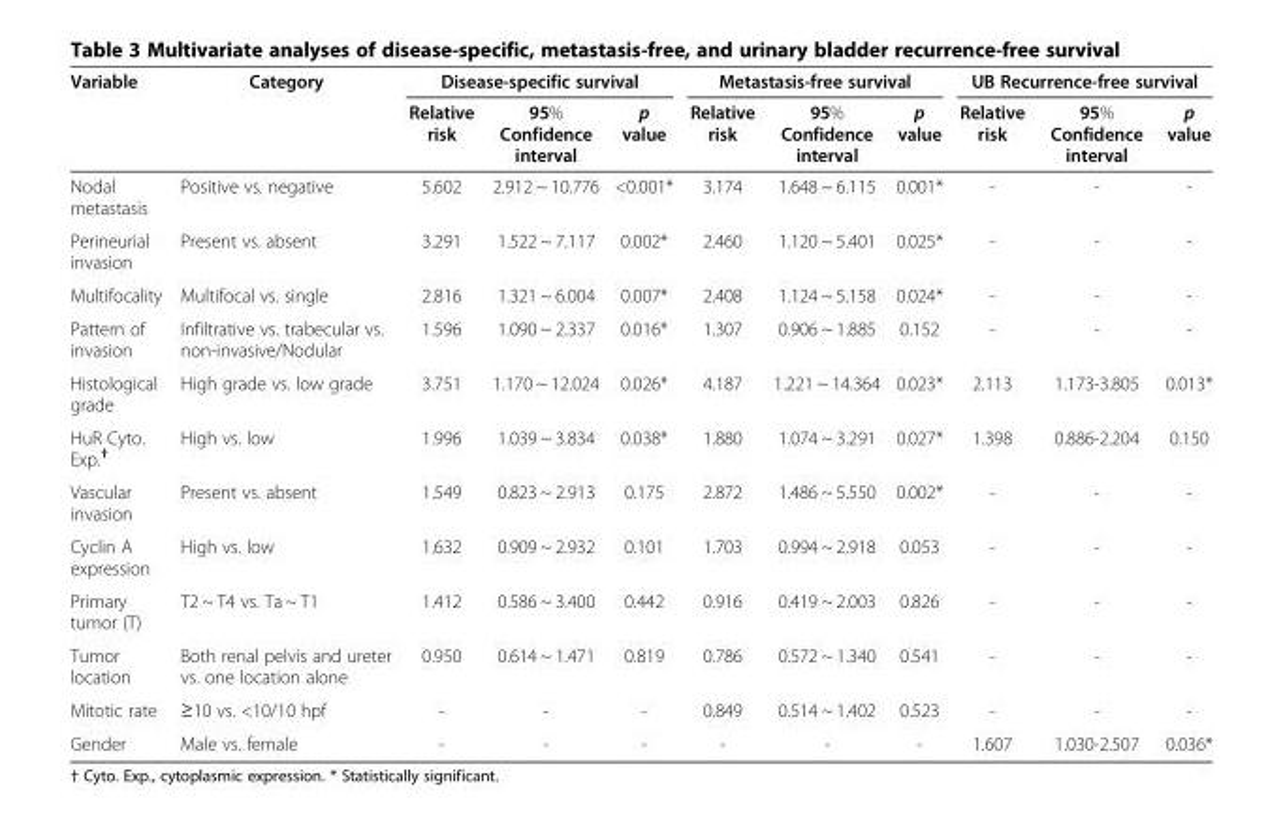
<table><thead><tr><td rowspan="2">Variable</td><td rowspan="2">Category</td><td colspan="3">Disease-specific survival</td><td colspan="3">Metastasis-free survival</td><td colspan="3">UB Recurrence-free survival</td></tr><tr><td>Relative risk</td><td>95% Confidence interval</td><td>p value</td><td>Relative risk</td><td>95% Confidence interval</td><td>p value</td><td>Relative risk</td><td>95% Confidence interval</td><td>p value</td></tr></thead><tbody><tr><td>Nodal metastasis</td><td>Positive vs. negative</td><td>5.602</td><td>2.912 ~ 10.776</td><td>&lt;0.001*</td><td>3.174</td><td>1.648 ~ 6.115</td><td>0.001*</td><td>-</td><td>-</td><td>-</td></tr><tr><td>Perineurial invasion</td><td>Present vs. absent</td><td>3.291</td><td>1.522 ~ 7.117</td><td>0.002*</td><td>2.460</td><td>1.120 ~ 5.401</td><td>0.025*</td><td>-</td><td>-</td><td>-</td></tr><tr><td>Multifocality</td><td>Multifocal vs. single</td><td>2.816</td><td>1.321 ~ 6.004</td><td>0.007*</td><td>2.408</td><td>1.124 ~ 5.158</td><td>0.024*</td><td>-</td><td>-</td><td>-</td></tr><tr><td>Pattern of invasion</td><td>Infiltrative vs. trabecular vs. non-invasive/Nodular</td><td>1.596</td><td>1.090 ~ 2.337</td><td>0.016*</td><td>1.307</td><td>0.906 ~ 1.885</td><td>0.152</td><td>-</td><td>-</td><td>-</td></tr><tr><td>Histological grade</td><td>High grade vs. low grade</td><td>3.751</td><td>1.170 ~ 12.024</td><td>0.026*</td><td>4.187</td><td>1.221 ~ 14.364</td><td>0.023*</td><td>2.113</td><td>1.173-3.805</td><td>0.013*</td></tr><tr><td>HuR Cyto. Exp.<sup>†</sup></td><td>High vs. low</td><td>1.996</td><td>1.039 ~ 3.834</td><td>0.038*</td><td>1.880</td><td>1.074 ~ 3.291</td><td>0.027*</td><td>1.398</td><td>0.886-2.204</td><td>0.150</td></tr><tr><td>Vascular invasion</td><td>Present vs. absent</td><td>1.549</td><td>0.823 ~ 2.913</td><td>0.175</td><td>2.872</td><td>1.486 ~ 5.550</td><td>0.002*</td><td>-</td><td>-</td><td>-</td></tr><tr><td>Cyclin A expression</td><td>High vs. low</td><td>1.632</td><td>0.909 ~ 2.932</td><td>0.101</td><td>1.703</td><td>0.994 ~ 2.918</td><td>0.053</td><td>-</td><td>-</td><td>-</td></tr><tr><td>Primary tumor (T)</td><td>T2 ~ T4 vs. Ta ~ T1</td><td>1.412</td><td>0.586 ~ 3.400</td><td>0.442</td><td>0.916</td><td>0.419 ~ 2.003</td><td>0.826</td><td>-</td><td>-</td><td>-</td></tr><tr><td>Tumor location</td><td>Both renal pelvis and ureter vs. one location alone</td><td>0.950</td><td>0.614 ~ 1.471</td><td>0.819</td><td>0.786</td><td>0.572 ~ 1.340</td><td>0.541</td><td>-</td><td>-</td><td>-</td></tr><tr><td>Mitotic rate</td><td>≥10 vs. &lt;10/10 hpf</td><td>-</td><td>-</td><td>-</td><td>0.849</td><td>0.514 ~ 1.402</td><td>0.523</td><td>-</td><td>-</td><td>-</td></tr><tr><td>Gender</td><td>Male vs. female</td><td>-</td><td>-</td><td>-</td><td>-</td><td>-</td><td>-</td><td>1.607</td><td>1.030-2.507</td><td>0.036*</td></tr></tbody></table>